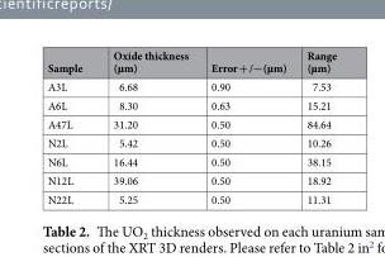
<table><thead><tr><td>Sample</td><td>Oxide thickness (µm)</td><td>Error + /−(µm)</td><td>Range (µm)</td></tr></thead><tbody><tr><td>A3L</td><td>6.68</td><td>0.90</td><td>7.53</td></tr><tr><td>A6L</td><td>8.30</td><td>0.63</td><td>15.21</td></tr><tr><td>A47L</td><td>31.20</td><td>0.50</td><td>84.64</td></tr><tr><td>N2L</td><td>5.42</td><td>0.50</td><td>10.26</td></tr><tr><td>N6L</td><td>16.44</td><td>0.50</td><td>38.15</td></tr><tr><td>N12L</td><td>39.06</td><td>0.50</td><td>18.92</td></tr><tr><td>N22L</td><td>5.25</td><td>0.50</td><td>11.31</td></tr></tbody></table>